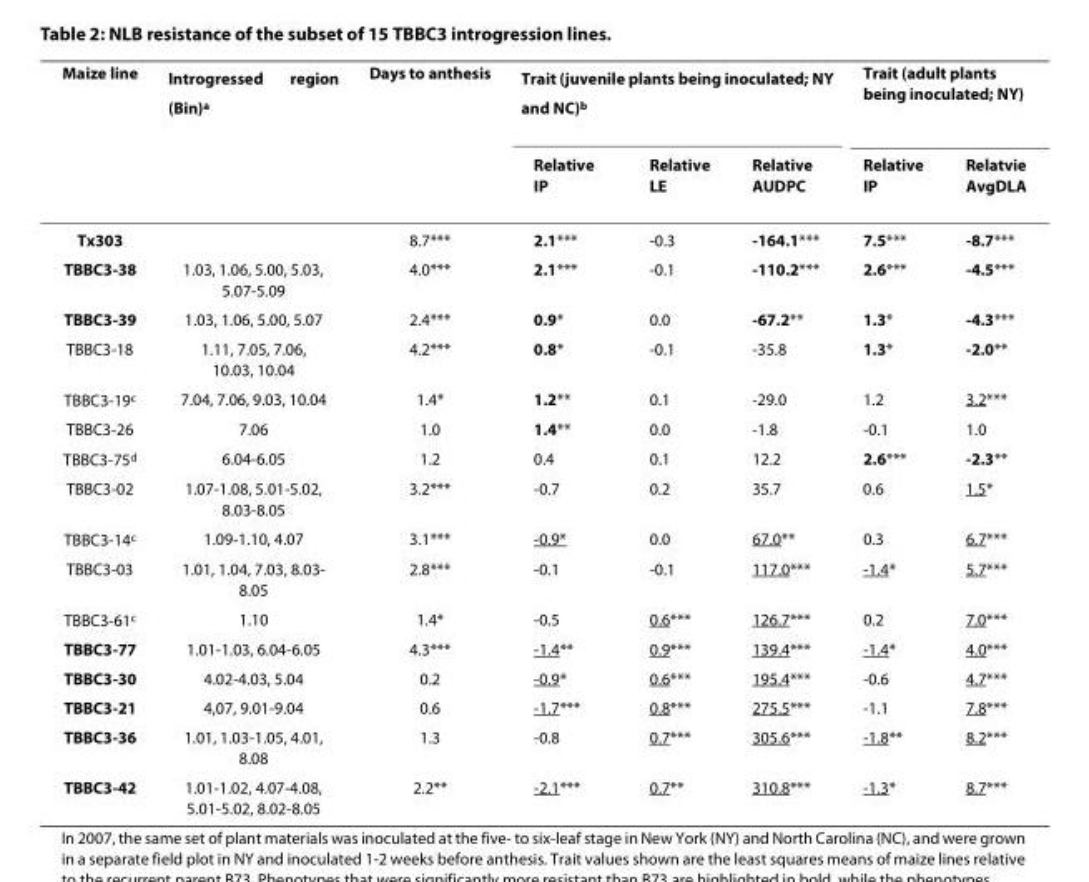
<table><thead><tr><td rowspan="2">Maize line</td><td rowspan="2">Introgressed region (Bin)<sup>a</sup></td><td rowspan="2">Days to anthesis</td><td colspan="3">Trait (juvenile plants being inoculated; NY and NC)<sup>b</sup></td><td colspan="2">Trait (adult plants being inoculated; NY)</td></tr><tr><td>Relative IP</td><td>Relative LE</td><td>Relative AUDPC</td><td>Relative IP</td><td>Relatvie AvgDLA</td></tr></thead><tbody><tr><td>Tx303</td><td></td><td>8.7***</td><td>2.1***</td><td>-0.3</td><td>-164.1***</td><td>7.5***</td><td>-8.7***</td></tr><tr><td>TBBC3-38</td><td>1.03, 1.06, 5.00, 5.03, 5.07-5.09</td><td>4.0***</td><td>2.1***</td><td>-0.1</td><td>-110.2***</td><td>2.6***</td><td>-4.5***</td></tr><tr><td>TBBC3-39</td><td>1.03, 1.06, 5.00, 5.07</td><td>2.4***</td><td>0.9*</td><td>0.0</td><td>-67.2**</td><td>1.3*</td><td>-4.3***</td></tr><tr><td>TBBC3-18</td><td>1.11, 7.05, 7.06, 10.03, 10.04</td><td>4.2***</td><td>0.8*</td><td>-0.1</td><td>-35.8</td><td>1.3*</td><td>-2.0**</td></tr><tr><td>TBBC3-19<sup>c</sup></td><td>7.04, 7.06, 9.03, 10.04</td><td>1.4*</td><td>1.2**</td><td>0.1</td><td>-29.0</td><td>1.2</td><td>3.2***</td></tr><tr><td>TBBC3-26</td><td>7.06</td><td>1.0</td><td>1.4**</td><td>0.0</td><td>-1.8</td><td>-0.1</td><td>1.0</td></tr><tr><td>TBBC3-75<sup>d</sup></td><td>6.04-6.05</td><td>1.2</td><td>0.4</td><td>0.1</td><td>12.2</td><td>2.6***</td><td>-2.3**</td></tr><tr><td>TBBC3-02</td><td>1.07-1.08, 5.01-5.02, 8.03-8.05</td><td>3.2***</td><td>-0.7</td><td>0.2</td><td>35.7</td><td>0.6</td><td>1.5*</td></tr><tr><td>TBBC3-14<sup>c</sup></td><td>1.09-1.10, 4.07</td><td>3.1***</td><td>-0.9*</td><td>0.0</td><td>67.0**</td><td>0.3</td><td>6.7***</td></tr><tr><td>TBBC3-03</td><td>1.01, 1.04, 7.03, 8.03- 8.05</td><td>2.8***</td><td>-0.1</td><td>-0.1</td><td>117.0***</td><td>-1.4*</td><td>5.7***</td></tr><tr><td>TBBC3-61<sup>c</sup></td><td>1.10</td><td>1.4*</td><td>-0.5</td><td>0.6***</td><td>126.7***</td><td>0.2</td><td>7.0***</td></tr><tr><td>TBBC3-77</td><td>1.01-1.03, 6.04-6.05</td><td>4.3***</td><td>-1.4**</td><td>0.9***</td><td>139.4***</td><td>-1.4*</td><td>4.0***</td></tr><tr><td>TBBC3-30</td><td>4.02-4.03, 5.04</td><td>0.2</td><td>-0.9*</td><td>0.6***</td><td>195.4***</td><td>-0.6</td><td>4.7***</td></tr><tr><td>TBBC3-21</td><td>4,07, 9.01-9.04</td><td>0.6</td><td>-1.7***</td><td>0.8***</td><td>275.5***</td><td>-1.1</td><td>7.8***</td></tr><tr><td>TBBC3-36</td><td>1.01, 1.03-1.05, 4.01, 8.08</td><td>1.3</td><td>-0.8</td><td>0.7***</td><td>305.6***</td><td>-1.8**</td><td>8.2***</td></tr><tr><td>TBBC3-42</td><td>1.01-1.02, 4.07-4.08, 5.01-5.02, 8.02-8.05</td><td>2.2**</td><td>-2.1***</td><td>0.7**</td><td>310.8***</td><td>-1.3*</td><td>8.7***</td></tr></tbody></table>